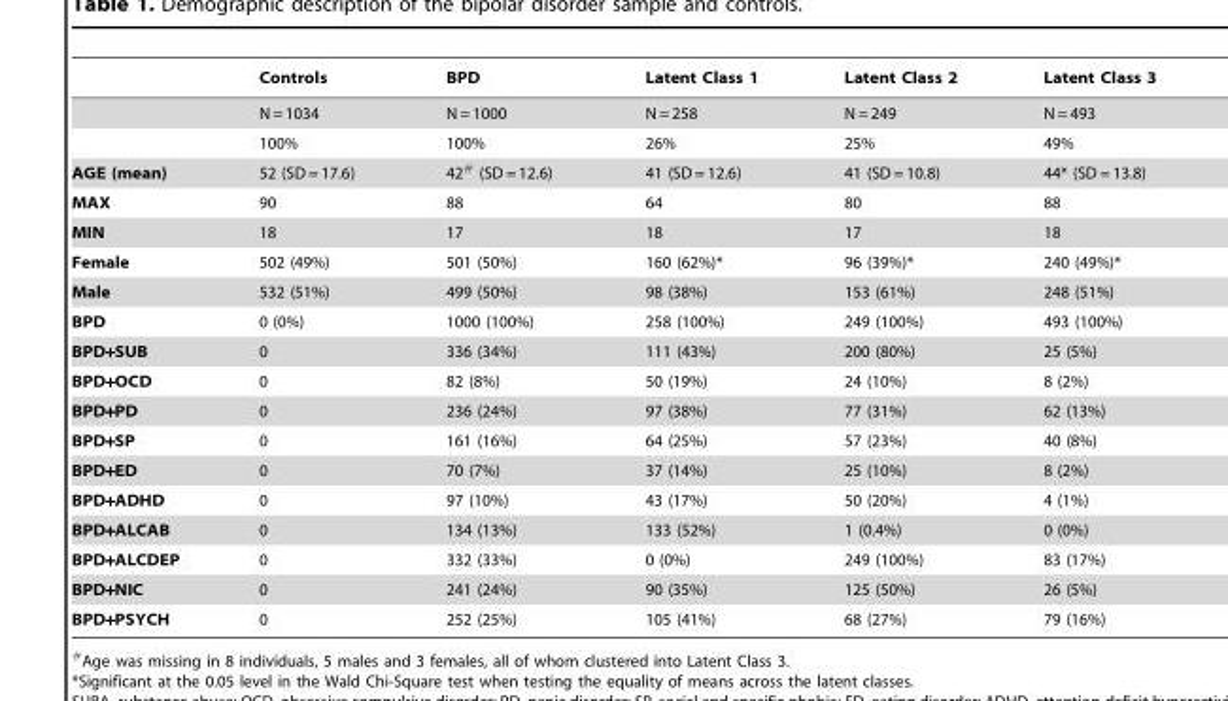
<table><thead><tr><td></td><td>Controls</td><td>BPD</td><td>Latent Class 1</td><td>Latent Class 2</td><td>Latent Class 3</td></tr></thead><tbody><tr><td></td><td>N = 1034</td><td>N = 1000</td><td>N = 258</td><td>N = 249</td><td>N = 493</td></tr><tr><td></td><td>100%</td><td>100%</td><td>26%</td><td>25%</td><td>49%</td></tr><tr><td>AGE (mean)</td><td>52 (SD = 17.6)</td><td>42# (SD = 12.6)</td><td>41 (SD = 12.6)</td><td>41 (SD = 10.8)</td><td>44* (SD = 13.8)</td></tr><tr><td>MAX</td><td>90</td><td>88</td><td>64</td><td>80</td><td>88</td></tr><tr><td>MIN</td><td>18</td><td>17</td><td>18</td><td>17</td><td>18</td></tr><tr><td>Female</td><td>502 (49%)</td><td>501 (50%)</td><td>160 (62%)*</td><td>96 (39%)*</td><td>240 (49%)*</td></tr><tr><td>Male</td><td>532 (51%)</td><td>499 (50%)</td><td>98 (38%)</td><td>153 (61%)</td><td>248 (51%)</td></tr><tr><td>BPD</td><td>0 (0%)</td><td>1000 (100%)</td><td>258 (100%)</td><td>249 (100%)</td><td>493 (100%)</td></tr><tr><td>BPD+SUB</td><td>0</td><td>336 (34%)</td><td>111 (43%)</td><td>200 (80%)</td><td>25 (5%)</td></tr><tr><td>BPD+OCD</td><td>0</td><td>82 (8%)</td><td>50 (19%)</td><td>24 (10%)</td><td>8 (2%)</td></tr><tr><td>BPD+PD</td><td>0</td><td>236 (24%)</td><td>97 (38%)</td><td>77 (31%)</td><td>62 (13%)</td></tr><tr><td>BPD+SP</td><td>0</td><td>161 (16%)</td><td>64 (25%)</td><td>57 (23%)</td><td>40 (8%)</td></tr><tr><td>BPD+ED</td><td>0</td><td>70 (7%)</td><td>37 (14%)</td><td>25 (10%)</td><td>8 (2%)</td></tr><tr><td>BPD+ADHD</td><td>0</td><td>97 (10%)</td><td>43 (17%)</td><td>50 (20%)</td><td>4 (1%)</td></tr><tr><td>BPD+ALCAB</td><td>0</td><td>134 (13%)</td><td>133 (52%)</td><td>1 (0.4%)</td><td>0 (0%)</td></tr><tr><td>BPD+ALCDEP</td><td>0</td><td>332 (33%)</td><td>0 (0%)</td><td>249 (100%)</td><td>83 (17%)</td></tr><tr><td>BPD+NIC</td><td>0</td><td>241 (24%)</td><td>90 (35%)</td><td>125 (50%)</td><td>26 (5%)</td></tr><tr><td>BPD+PSYCH</td><td>0</td><td>252 (25%)</td><td>105 (41%)</td><td>68 (27%)</td><td>79 (16%)</td></tr></tbody></table>